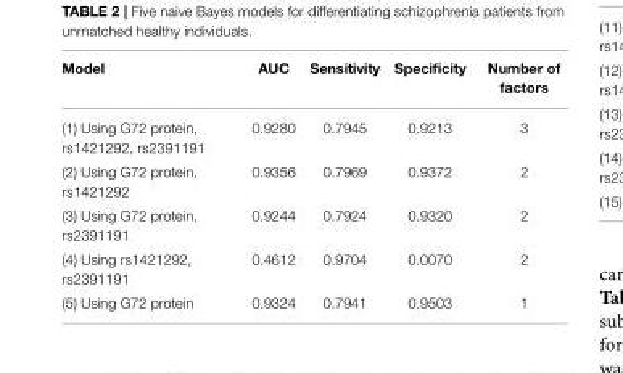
<table><thead><tr><td>Model</td><td>AUC</td><td>Sensitivity</td><td>Specificity</td><td>Number of factors</td></tr></thead><tbody><tr><td>(1) Using G72 protein, rs1421292, rs2391191</td><td>0.9280</td><td>0.7945</td><td>0.9213</td><td>3</td></tr><tr><td>(2) Using G72 protein, rs1421292</td><td>0.9356</td><td>0.7969</td><td>0.9372</td><td>2</td></tr><tr><td>(3) Using G72 protein, rs2391191</td><td>0.9244</td><td>0.7924</td><td>0.9320</td><td>2</td></tr><tr><td>(4) Using rs1421292, rs2391191</td><td>0.4612</td><td>0.9704</td><td>0.0070</td><td>2</td></tr><tr><td>(5) Using G72 protein</td><td>0.9324</td><td>0.7941</td><td>0.9503</td><td>1</td></tr></tbody></table>